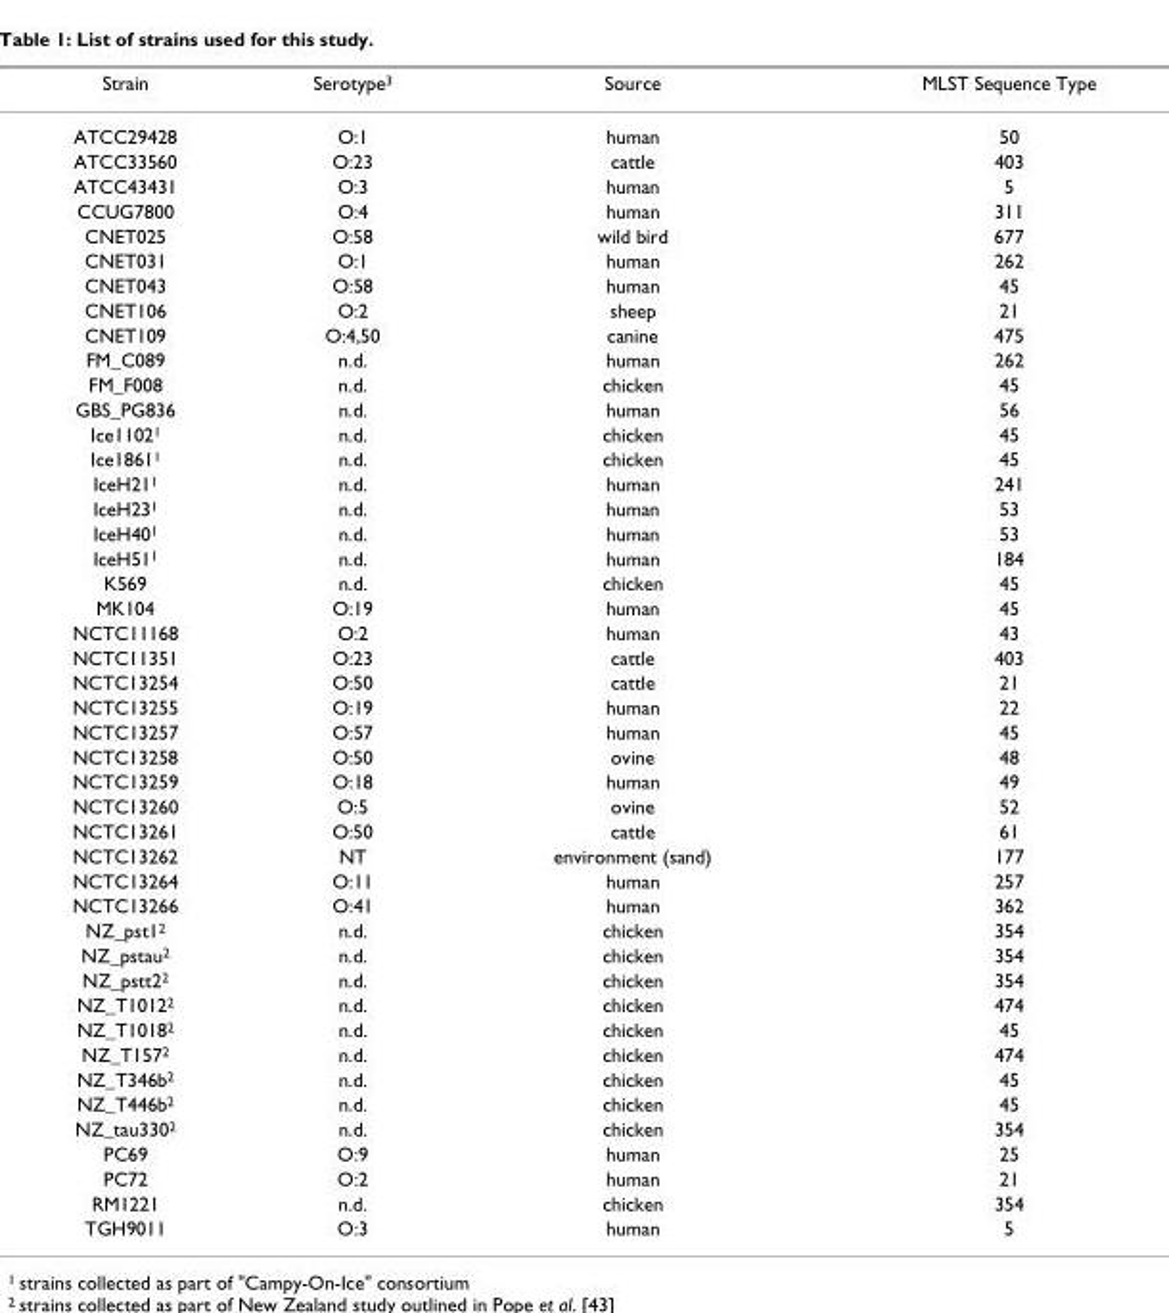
<table><thead><tr><td>Strain</td><td>Serotype<sup>3</sup></td><td>Source</td><td>MLST Sequence Type</td></tr></thead><tbody><tr><td>ATCC29428</td><td>O:1</td><td>human</td><td>50</td></tr><tr><td>ATCC33560</td><td>O:23</td><td>cattle</td><td>403</td></tr><tr><td>ATCC43431</td><td>O:3</td><td>human</td><td>5</td></tr><tr><td>CCUG7800</td><td>O:4</td><td>human</td><td>311</td></tr><tr><td>CNET025</td><td>O:58</td><td>wild bird</td><td>677</td></tr><tr><td>CNET031</td><td>O:1</td><td>human</td><td>262</td></tr><tr><td>CNET043</td><td>O:58</td><td>human</td><td>45</td></tr><tr><td>CNET106</td><td>O:2</td><td>sheep</td><td>21</td></tr><tr><td>CNET109</td><td>O:4,50</td><td>canine</td><td>475</td></tr><tr><td>FM_C089</td><td>n.d.</td><td>human</td><td>262</td></tr><tr><td>FM_F008</td><td>n.d.</td><td>chicken</td><td>45</td></tr><tr><td>GBS_PG836</td><td>n.d.</td><td>human</td><td>56</td></tr><tr><td>Ice1102<sup>1</sup></td><td>n.d.</td><td>chicken</td><td>45</td></tr><tr><td>Ice1861<sup>1</sup></td><td>n.d.</td><td>chicken</td><td>45</td></tr><tr><td>IceH21<sup>1</sup></td><td>n.d.</td><td>human</td><td>241</td></tr><tr><td>IceH23<sup>1</sup></td><td>n.d.</td><td>human</td><td>53</td></tr><tr><td>IceH40<sup>1</sup></td><td>n.d.</td><td>human</td><td>53</td></tr><tr><td>IceH51<sup>1</sup></td><td>n.d.</td><td>human</td><td>184</td></tr><tr><td>K569</td><td>n.d.</td><td>chicken</td><td>45</td></tr><tr><td>MK104</td><td>O:19</td><td>human</td><td>45</td></tr><tr><td>NCTC11168</td><td>O:2</td><td>human</td><td>43</td></tr><tr><td>NCTC11351</td><td>O:23</td><td>cattle</td><td>403</td></tr><tr><td>NCTC13254</td><td>O:50</td><td>cattle</td><td>21</td></tr><tr><td>NCTC13255</td><td>O:19</td><td>human</td><td>22</td></tr><tr><td>NCTC13257</td><td>O:57</td><td>human</td><td>45</td></tr><tr><td>NCTC13258</td><td>O:50</td><td>ovine</td><td>48</td></tr><tr><td>NCTC13259</td><td>O:18</td><td>human</td><td>49</td></tr><tr><td>NCTC13260</td><td>O:5</td><td>ovine</td><td>52</td></tr><tr><td>NCTC13261</td><td>O:50</td><td>cattle</td><td>61</td></tr><tr><td>NCTC13262</td><td>NT</td><td>environment (sand)</td><td>177</td></tr><tr><td>NCTC13264</td><td>O:11</td><td>human</td><td>257</td></tr><tr><td>NCTC13266</td><td>O:41</td><td>human</td><td>362</td></tr><tr><td>NZ_pst1<sup>2</sup></td><td>n.d.</td><td>chicken</td><td>354</td></tr><tr><td>NZ_pstau<sup>2</sup></td><td>n.d.</td><td>chicken</td><td>354</td></tr><tr><td>NZ_pstt2<sup>2</sup></td><td>n.d.</td><td>chicken</td><td>354</td></tr><tr><td>NZ_T1012<sup>2</sup></td><td>n.d.</td><td>chicken</td><td>474</td></tr><tr><td>NZ_T1018<sup>2</sup></td><td>n.d.</td><td>chicken</td><td>45</td></tr><tr><td>NZ_T157<sup>2</sup></td><td>n.d.</td><td>chicken</td><td>474</td></tr><tr><td>NZ_T346b<sup>2</sup></td><td>n.d.</td><td>chicken</td><td>45</td></tr><tr><td>NZ_T446b<sup>2</sup></td><td>n.d.</td><td>chicken</td><td>45</td></tr><tr><td>NZ_tau330<sup>2</sup></td><td>n.d.</td><td>chicken</td><td>354</td></tr><tr><td>PC69</td><td>O:9</td><td>human</td><td>25</td></tr><tr><td>PC72</td><td>O:2</td><td>human</td><td>21</td></tr><tr><td>RM1221</td><td>n.d.</td><td>chicken</td><td>354</td></tr><tr><td>TGH9011</td><td>O:3</td><td>human</td><td>5</td></tr></tbody></table>